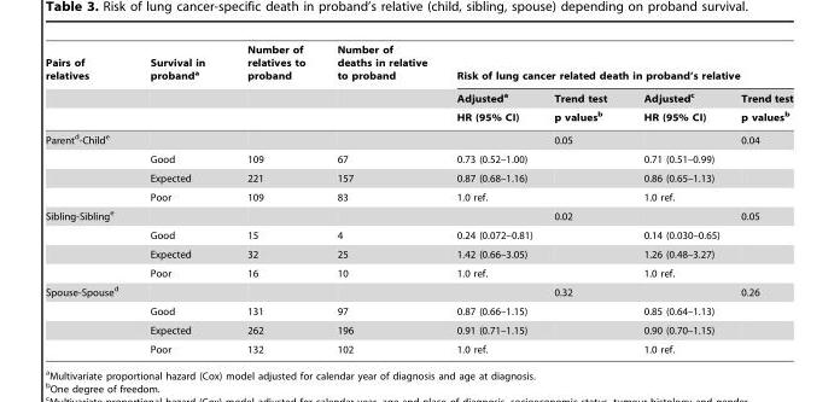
<table><thead><tr><td rowspan="3">Pairs of relatives</td><td rowspan="3">Survival in proband<sup>a</sup></td><td rowspan="3">Number of relatives to proband</td><td rowspan="3">Number of deaths in relative to proband</td><td colspan="4">Risk of lung cancer related death in proband’s relative</td></tr><tr><td rowspan="2">Adjusted<sup>a</sup> HR (95% CI)</td><td rowspan="2">Trend test p values<sup>b</sup></td><td rowspan="2">Adjusted<sup>c</sup> HR (95% CI)</td><td rowspan="2">Trend test p values<sup>b</sup></td></tr><tr></tr></thead><tbody><tr><td rowspan="4">Parent<sup>d</sup>-Child<sup>e</sup></td><td></td><td></td><td></td><td></td><td>0.05</td><td></td><td>0.04</td></tr><tr><td>Good</td><td>109</td><td>67</td><td>0.73 (0.52–1.00)</td><td></td><td>0.71 (0.51–0.99)</td><td></td></tr><tr><td>Expected</td><td>221</td><td>157</td><td>0.87 (0.68–1.16)</td><td></td><td>0.86 (0.65–1.13)</td><td></td></tr><tr><td>Poor</td><td>109</td><td>83</td><td>1.0 ref.</td><td></td><td>1.0 ref.</td><td></td></tr><tr><td rowspan="4">Sibling-Sibling<sup>e</sup></td><td></td><td></td><td></td><td></td><td>0.02</td><td></td><td>0.05</td></tr><tr><td>Good</td><td>15</td><td>4</td><td>0.24 (0.072–0.81)</td><td></td><td>0.14 (0.030–0.65)</td><td></td></tr><tr><td>Expected</td><td>32</td><td>25</td><td>1.42 (0.66–3.05)</td><td></td><td>1.26 (0.48–3.27)</td><td></td></tr><tr><td>Poor</td><td>16</td><td>10</td><td>1.0 ref.</td><td></td><td>1.0 ref.</td><td></td></tr><tr><td rowspan="4">Spouse-Spouse<sup>d</sup></td><td></td><td></td><td></td><td></td><td>0.32</td><td></td><td>0.26</td></tr><tr><td>Good</td><td>131</td><td>97</td><td>0.87 (0.66–1.15)</td><td></td><td>0.85 (0.64–1.13)</td><td></td></tr><tr><td>Expected</td><td>262</td><td>196</td><td>0.91 (0.71–1.15)</td><td></td><td>0.90 (0.70–1.15)</td><td></td></tr><tr><td>Poor</td><td>132</td><td>102</td><td>1.0 ref.</td><td></td><td>1.0 ref.</td><td></td></tr></tbody></table>